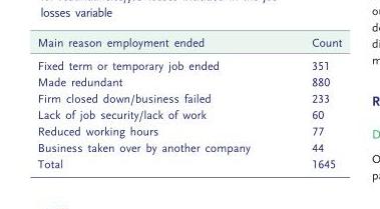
<table><thead><tr><td>Main reason employment ended</td><td>Count</td></tr></thead><tbody><tr><td>Fixed term or temporary job ended</td><td>351</td></tr><tr><td>Made redundant</td><td>880</td></tr><tr><td>Firm closed down/business failed</td><td>233</td></tr><tr><td>Lack of job security/lack of work</td><td>60</td></tr><tr><td>Reduced working hours</td><td>77</td></tr><tr><td>Business taken over by another company</td><td>44</td></tr><tr><td>Total</td><td>1645</td></tr></tbody></table>